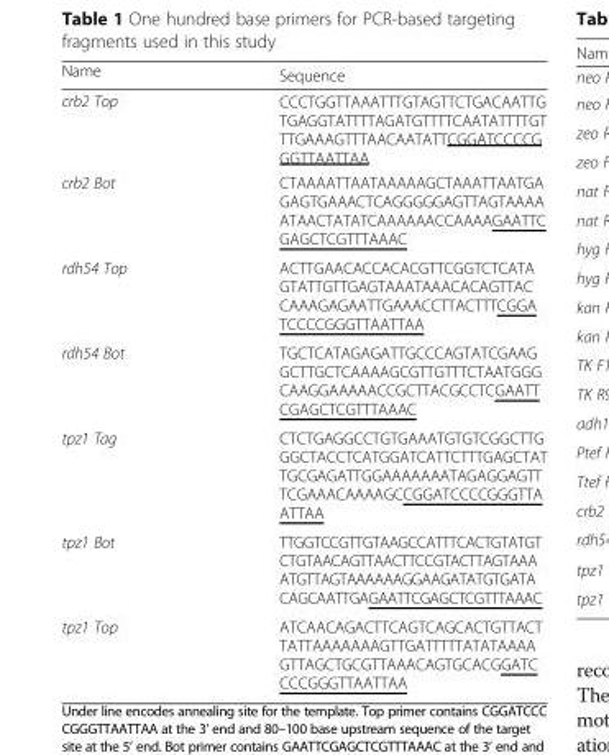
<table><thead><tr><td>Name</td><td>Sequence</td></tr></thead><tbody><tr><td>crb2 Top</td><td>CCCTGGTTAAATTTGTAGTTCTGACAATTG TGAGGTATTTTAGATGTTTTCAATATTTTGT TTGAAAGTTTAACAATATTCGGATCCCCG GGTTAATTAA</td></tr><tr><td>crb2 Bot</td><td>CTAAAATTAATAAAAAGCTAAATTAATGA GAGTGAAACTCAGGGGGAGTTAGTAAAA ATAACTATATCAAAAAACCAAAAGAATTC GAGCTCGTTTAAAC</td></tr><tr><td>rdh54 Top</td><td>ACTTGAACACCACACGTTCGGTCTCATA GTATTGTTGAGTAAATAAACACAGTTAC CAAAGAGAATTGAAACCTTACTTTCGGA TCCCCGGGTTAATTAA</td></tr><tr><td>rdh54 Bot</td><td>TGCTCATAGAGATTGCCCAGTATCGAAG GCTTGCTCAAAAGCGTTGTTTCTAATGGG CAAGGAAAAACCGCTTACGCCTCGAATT CGAGCTCGTTTAAAC</td></tr><tr><td>tpz1 Tag</td><td>CTCTGAGGCCTGTGAAATGTGTCGGCTTG GGCTACCTCATGGATCATTCTTTGAGCTAT TGCGAGATTGGAAAAAAATAGAGGAGTT TCGAAACAAAAGCCGGATCCCCGGGTTA ATTAA</td></tr><tr><td>tpz1 Bot</td><td>TTGGTCCGTTGTAAGCCATTTCACTGTATGT CTGTAACAGTTAACTTCCGTACTTAGTAAA ATGTTAGTAAAAAAGGAAGATATGTGATA CAGCAATTGAGAATTCGAGCTCGTTTAAAC</td></tr><tr><td>tpz1 Top</td><td>ATCAACAGACTTCAGTCAGCACTGTTACT TATTAAAAAAAGTTGATTTTTATATAAAA GTTAGCTGCGTTAAACAGTGCACGGATC CCCGGGTTAATTAA</td></tr></tbody></table>